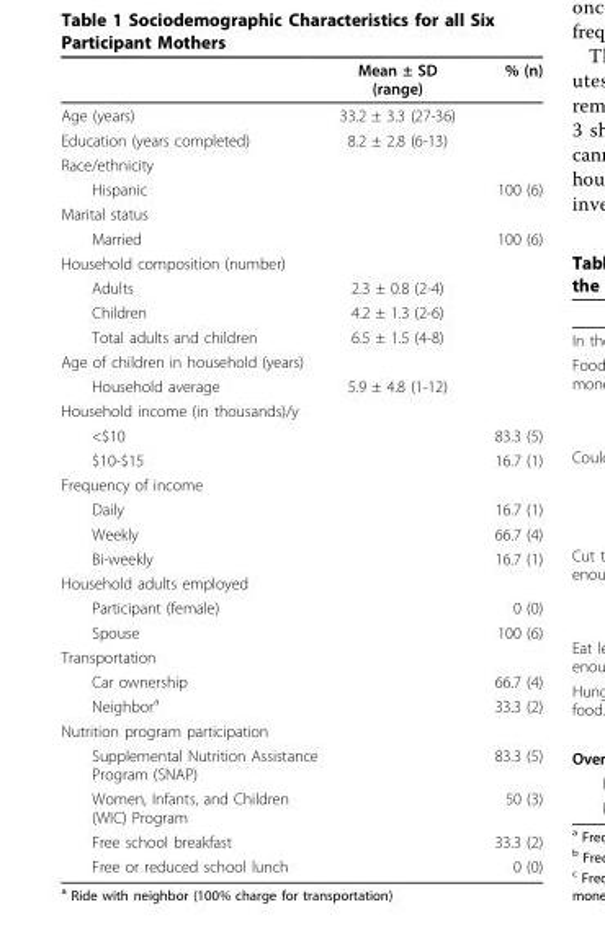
<table><thead><tr><td></td><td>Mean ± SD (range)</td><td>% (n)</td></tr></thead><tbody><tr><td>Age (years)</td><td>33.2 ± 3.3 (27-36)</td><td></td></tr><tr><td>Education (years completed)</td><td>8.2 ± 2.8 (6-13)</td><td></td></tr><tr><td colspan="3">Race/ethnicity</td></tr><tr><td>Hispanic</td><td></td><td>100 (6)</td></tr><tr><td colspan="3">Marital status</td></tr><tr><td>Married</td><td></td><td>100 (6)</td></tr><tr><td colspan="3">Household composition (number)</td></tr><tr><td>Adults</td><td>2.3 ± 0.8 (2-4)</td><td></td></tr><tr><td>Children</td><td>4.2 ± 1.3 (2-6)</td><td></td></tr><tr><td>Total adults and children</td><td>6.5 ± 1.5 (4-8)</td><td></td></tr><tr><td colspan="3">Age of children in household (years)</td></tr><tr><td>Household average</td><td>5.9 ± 4.8 (1-12)</td><td></td></tr><tr><td colspan="3">Household income (in thousands)/y</td></tr><tr><td>&lt;$10</td><td></td><td>83.3 (5)</td></tr><tr><td>$10-$15</td><td></td><td>16.7 (1)</td></tr><tr><td colspan="3">Frequency of income</td></tr><tr><td>Daily</td><td></td><td>16.7 (1)</td></tr><tr><td>Weekly</td><td></td><td>66.7 (4)</td></tr><tr><td>Bi-weekly</td><td></td><td>16.7 (1)</td></tr><tr><td colspan="3">Household adults employed</td></tr><tr><td>Participant (female)</td><td></td><td>0 (0)</td></tr><tr><td>Spouse</td><td></td><td>100 (6)</td></tr><tr><td colspan="3">Transportation</td></tr><tr><td>Car ownership</td><td></td><td>66.7 (4)</td></tr><tr><td>Neighbor<sup>a</sup></td><td></td><td>33.3 (2)</td></tr><tr><td colspan="3">Nutrition program participation</td></tr><tr><td>Supplemental Nutrition Assistance Program (SNAP)</td><td></td><td>83.3 (5)</td></tr><tr><td>Women, Infants, and Children (WIC) Program</td><td></td><td>50 (3)</td></tr><tr><td>Free school breakfast</td><td></td><td>33.3 (2)</td></tr><tr><td>Free or reduced school lunch</td><td></td><td>0 (0)</td></tr></tbody></table>